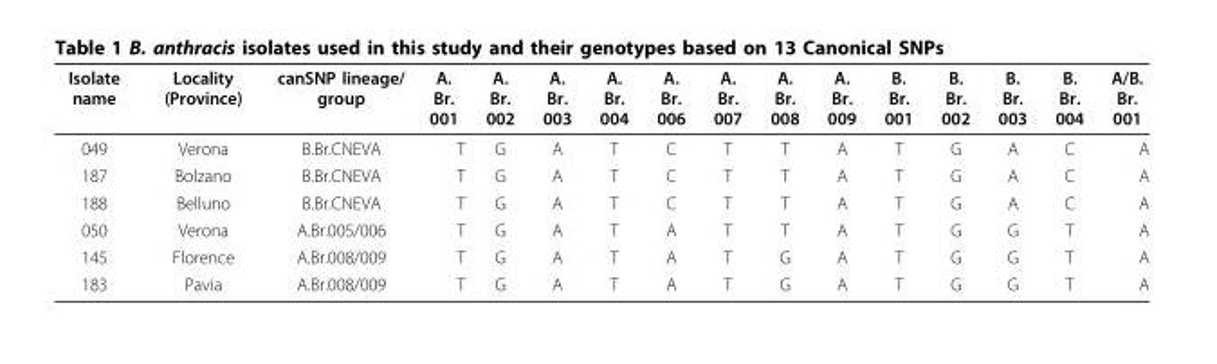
<table><thead><tr><td>Isolate name</td><td>Locality (Province)</td><td>canSNP lineage/ group</td><td>A. Br. 001</td><td>A. Br. 002</td><td>A. Br. 003</td><td>A. Br. 004</td><td>A. Br. 006</td><td>A. Br. 007</td><td>A. Br. 008</td><td>A. Br. 009</td><td>B. Br. 001</td><td>B. Br. 002</td><td>B. Br. 003</td><td>B. Br. 004</td><td>A/B. Br. 001</td></tr></thead><tbody><tr><td>049</td><td>Verona</td><td>B.Br.CNEVA</td><td>T</td><td>G</td><td>A</td><td>T</td><td>C</td><td>T</td><td>T</td><td>A</td><td>T</td><td>G</td><td>A</td><td>C</td><td>A</td></tr><tr><td>187</td><td>Bolzano</td><td>B.Br.CNEVA</td><td>T</td><td>G</td><td>A</td><td>T</td><td>C</td><td>T</td><td>T</td><td>A</td><td>T</td><td>G</td><td>A</td><td>C</td><td>A</td></tr><tr><td>188</td><td>Belluno</td><td>B.Br.CNEVA</td><td>T</td><td>G</td><td>A</td><td>T</td><td>C</td><td>T</td><td>T</td><td>A</td><td>T</td><td>G</td><td>A</td><td>C</td><td>A</td></tr><tr><td>050</td><td>Verona</td><td>A.Br.005/006</td><td>T</td><td>G</td><td>A</td><td>T</td><td>A</td><td>T</td><td>T</td><td>A</td><td>T</td><td>G</td><td>G</td><td>T</td><td>A</td></tr><tr><td>145</td><td>Florence</td><td>A.Br.008/009</td><td>T</td><td>G</td><td>A</td><td>T</td><td>A</td><td>T</td><td>G</td><td>A</td><td>T</td><td>G</td><td>G</td><td>T</td><td>A</td></tr><tr><td>183</td><td>Pavia</td><td>A.Br.008/009</td><td>T</td><td>G</td><td>A</td><td>T</td><td>A</td><td>T</td><td>G</td><td>A</td><td>T</td><td>G</td><td>G</td><td>T</td><td>A</td></tr></tbody></table>